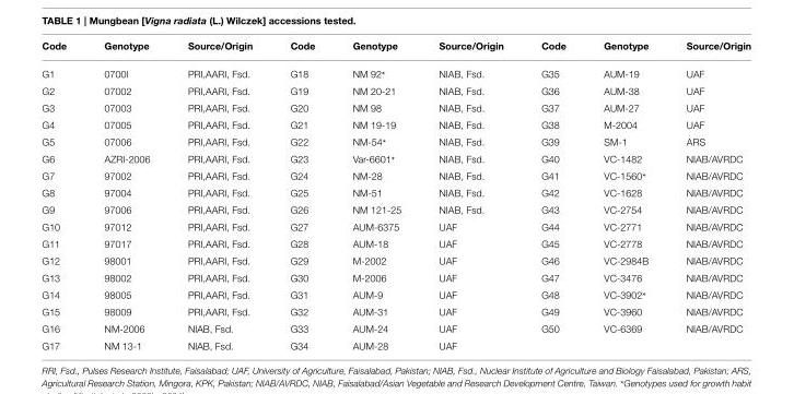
<table><thead><tr><td>Code</td><td>Genotype</td><td>Source/Origin</td><td>Code</td><td>Genotype</td><td>Source/Origin</td><td>Code</td><td>Genotype</td><td>Source/Origin</td></tr></thead><tbody><tr><td>G1</td><td>0700l</td><td>PRI,AARI, Fsd.</td><td>G18</td><td>NM 92*</td><td>NIAB, Fsd.</td><td>G35</td><td>AUM-19</td><td>UAF</td></tr><tr><td>G2</td><td>07002</td><td>PRI,AARI, Fsd.</td><td>G19</td><td>NM 20-21</td><td>NIAB, Fsd.</td><td>G36</td><td>AUM-38</td><td>UAF</td></tr><tr><td>G3</td><td>07003</td><td>PRI,AARI, Fsd.</td><td>G20</td><td>NM 98</td><td>NIAB, Fsd.</td><td>G37</td><td>AUM-27</td><td>UAF</td></tr><tr><td>G4</td><td>07005</td><td>PRI,AARI, Fsd.</td><td>G21</td><td>NM 19-19</td><td>NIAB, Fsd.</td><td>G38</td><td>M-2004</td><td>UAF</td></tr><tr><td>G5</td><td>07006</td><td>PRI,AARI, Fsd.</td><td>G22</td><td>NM-54*</td><td>NIAB, Fsd.</td><td>G39</td><td>SM-1</td><td>ARS</td></tr><tr><td>G6</td><td>AZRI-2006</td><td>PRI,AARI, Fsd.</td><td>G23</td><td>Var-6601*</td><td>NIAB, Fsd.</td><td>G40</td><td>VC-1482</td><td>NIAB/AVRDC</td></tr><tr><td>G7</td><td>97002</td><td>PRI,AARI, Fsd.</td><td>G24</td><td>NM-28</td><td>NIAB, Fsd.</td><td>G41</td><td>VC-1560*</td><td>NIAB/AVRDC</td></tr><tr><td>G8</td><td>97004</td><td>PRI,AARI, Fsd.</td><td>G25</td><td>NM-51</td><td>NIAB, Fsd.</td><td>G42</td><td>VC-1628</td><td>NIAB/AVRDC</td></tr><tr><td>G9</td><td>97006</td><td>PRI,AARI, Fsd.</td><td>G26</td><td>NM 121-25</td><td>NIAB, Fsd.</td><td>G43</td><td>VC-2754</td><td>NIAB/AVRDC</td></tr><tr><td>G10</td><td>97012</td><td>PRI,AARI, Fsd.</td><td>G27</td><td>AUM-6375</td><td>UAF</td><td>G44</td><td>VC-2771</td><td>NIAB/AVRDC</td></tr><tr><td>G11</td><td>97017</td><td>PRI,AARI, Fsd.</td><td>G28</td><td>AUM-18</td><td>UAF</td><td>G45</td><td>VC-2778</td><td>NIAB/AVRDC</td></tr><tr><td>G12</td><td>98001</td><td>PRI,AARI, Fsd.</td><td>G29</td><td>M-2002</td><td>UAF</td><td>G46</td><td>VC-2984B</td><td>NIAB/AVRDC</td></tr><tr><td>G13</td><td>98002</td><td>PRI,AARI, Fsd.</td><td>G30</td><td>M-2006</td><td>UAF</td><td>G47</td><td>VC-3476</td><td>NIAB/AVRDC</td></tr><tr><td>G14</td><td>98005</td><td>PRI,AARI, Fsd.</td><td>G31</td><td>AUM-9</td><td>UAF</td><td>G48</td><td>VC-3902*</td><td>NIAB/AVRDC</td></tr><tr><td>G15</td><td>98009</td><td>PRI,AARI, Fsd.</td><td>G32</td><td>AUM-31</td><td>UAF</td><td>G49</td><td>VC-3960</td><td>NIAB/AVRDC</td></tr><tr><td>G16</td><td>NM-2006</td><td>NIAB, Fsd.</td><td>G33</td><td>AUM-24</td><td>UAF</td><td>G50</td><td>VC-6369</td><td>NIAB/AVRDC</td></tr><tr><td>G17</td><td>NM 13-1</td><td>NIAB, Fsd.</td><td>G34</td><td>AUM-28</td><td>UAF</td><td></td><td></td><td></td></tr></tbody></table>